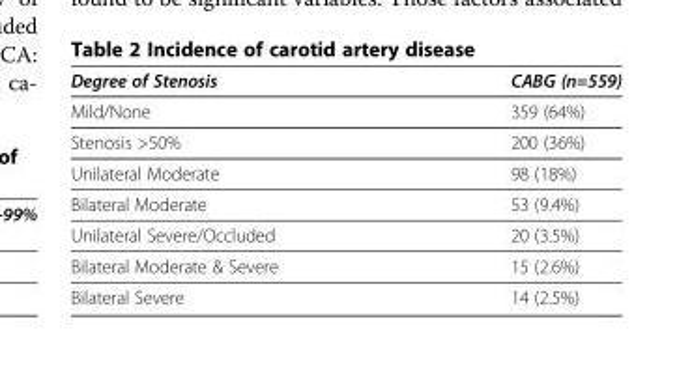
<table><thead><tr><td>Degree of Stenosis</td><td>CABG (n=559)</td></tr></thead><tbody><tr><td>Mild/None</td><td>359 (64%)</td></tr><tr><td>Stenosis &gt;50%</td><td>200 (36%)</td></tr><tr><td>Unilateral Moderate</td><td>98 (18%)</td></tr><tr><td>Bilateral Moderate</td><td>53 (9.4%)</td></tr><tr><td>Unilateral Severe/Occluded</td><td>20 (3.5%)</td></tr><tr><td>Bilateral Moderate &amp; Severe</td><td>15 (2.6%)</td></tr><tr><td>Bilateral Severe</td><td>14 (2.5%)</td></tr></tbody></table>